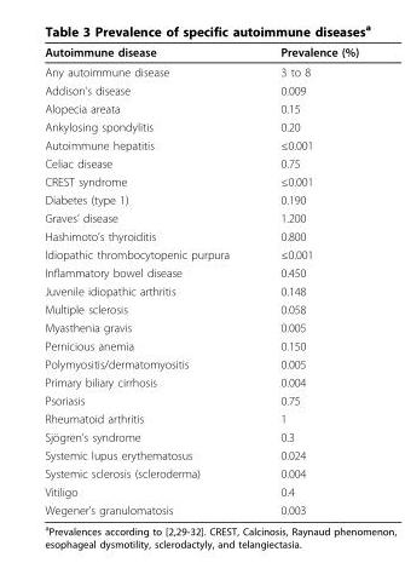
<table><thead><tr><td>Autoimmune disease</td><td>Prevalence (%)</td></tr></thead><tbody><tr><td>Any autoimmune disease</td><td>3 to 8</td></tr><tr><td>Addison’s disease</td><td>0.009</td></tr><tr><td>Alopecia areata</td><td>0.15</td></tr><tr><td>Ankylosing spondylitis</td><td>0.20</td></tr><tr><td>Autoimmune hepatitis</td><td>≤0.001</td></tr><tr><td>Celiac disease</td><td>0.75</td></tr><tr><td>CREST syndrome</td><td>≤0.001</td></tr><tr><td>Diabetes (type 1)</td><td>0.190</td></tr><tr><td>Graves’ disease</td><td>1.200</td></tr><tr><td>Hashimoto’s thyroiditis</td><td>0.800</td></tr><tr><td>Idiopathic thrombocytopenic purpura</td><td>≤0.001</td></tr><tr><td>Inflammatory bowel disease</td><td>0.450</td></tr><tr><td>Juvenile idiopathic arthritis</td><td>0.148</td></tr><tr><td>Multiple sclerosis</td><td>0.058</td></tr><tr><td>Myasthenia gravis</td><td>0.005</td></tr><tr><td>Pernicious anemia</td><td>0.150</td></tr><tr><td>Polymyositis/dermatomyositis</td><td>0.005</td></tr><tr><td>Primary biliary cirrhosis</td><td>0.004</td></tr><tr><td>Psoriasis</td><td>0.75</td></tr><tr><td>Rheumatoid arthritis</td><td>1</td></tr><tr><td>Sjögren’s syndrome</td><td>0.3</td></tr><tr><td>Systemic lupus erythematosus</td><td>0.024</td></tr><tr><td>Systemic sclerosis (scleroderma)</td><td>0.004</td></tr><tr><td>Vitiligo</td><td>0.4</td></tr><tr><td>Wegener’s granulomatosis</td><td>0.003</td></tr></tbody></table>